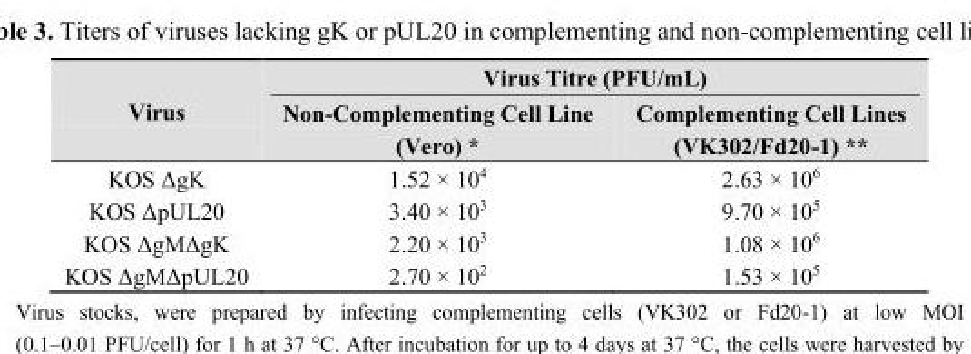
<table><thead><tr><td rowspan="2">Virus</td><td colspan="2">Virus Titre (PFU/mL)</td></tr><tr><td>Non-Complementing Cell Line (Vero) *</td><td>Complementing Cell Lines (VK302/Fd20-1) **</td></tr></thead><tbody><tr><td>KOS ΔgK</td><td>1.52 × 10<sup>4</sup></td><td>2.63 × 10<sup>6</sup></td></tr><tr><td>KOS ΔpUL20</td><td>3.40 × 10<sup>3</sup></td><td>9.70 × 10<sup>5</sup></td></tr><tr><td>KOS ΔgMΔgK</td><td>2.20 × 10<sup>3</sup></td><td>1.08 × 10<sup>6</sup></td></tr><tr><td>KOS ΔgMΔpUL20</td><td>2.70 × 10<sup>2</sup></td><td>1.53 × 10<sup>5</sup></td></tr></tbody></table>